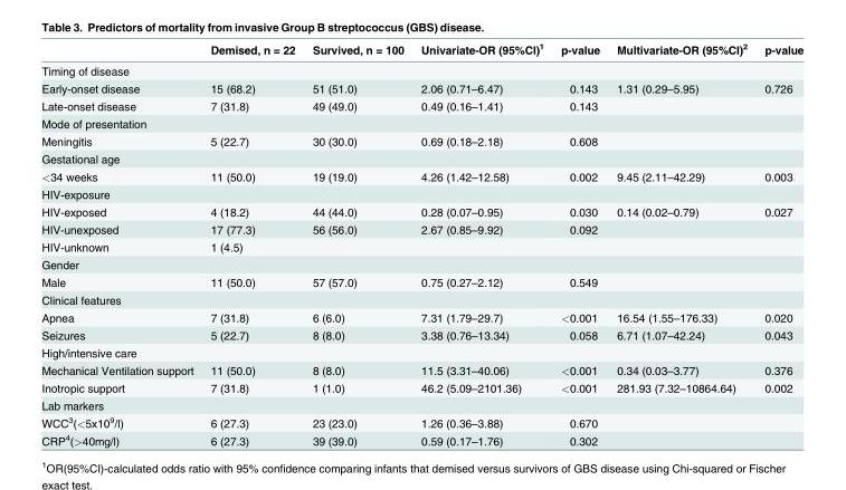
<table><thead><tr><td></td><td>Demised, n = 22</td><td>Survived, n = 100</td><td>Univariate-OR (95%CI)<sup>1</sup></td><td>p-value</td><td>Multivariate-OR (95%CI)<sup>2</sup></td><td>p-value</td></tr></thead><tbody><tr><td colspan="7">Timing of disease</td></tr><tr><td>Early-onset disease</td><td>15 (68.2)</td><td>51 (51.0)</td><td>2.06 (0.71–6.47)</td><td>0.143</td><td>1.31 (0.29–5.95)</td><td>0.726</td></tr><tr><td>Late-onset disease</td><td>7 (31.8)</td><td>49 (49.0)</td><td>0.49 (0.16–1.41)</td><td>0.143</td><td></td><td></td></tr><tr><td colspan="7">Mode of presentation</td></tr><tr><td>Meningitis</td><td>5 (22.7)</td><td>30 (30.0)</td><td>0.69 (0.18–2.18)</td><td>0.608</td><td></td><td></td></tr><tr><td colspan="7">Gestational age</td></tr><tr><td>&lt;34 weeks</td><td>11 (50.0)</td><td>19 (19.0)</td><td>4.26 (1.42–12.58)</td><td>0.002</td><td>9.45 (2.11–42.29)</td><td>0.003</td></tr><tr><td colspan="7">HIV-exposure</td></tr><tr><td>HIV-exposed</td><td>4 (18.2)</td><td>44 (44.0)</td><td>0.28 (0.07–0.95)</td><td>0.030</td><td>0.14 (0.02–0.79)</td><td>0.027</td></tr><tr><td>HIV-unexposed</td><td>17 (77.3)</td><td>56 (56.0)</td><td>2.67 (0.85–9.92)</td><td>0.092</td><td></td><td></td></tr><tr><td>HIV-unknown</td><td>1 (4.5)</td><td></td><td></td><td></td><td></td><td></td></tr><tr><td colspan="7">Gender</td></tr><tr><td>Male</td><td>11 (50.0)</td><td>57 (57.0)</td><td>0.75 (0.27–2.12)</td><td>0.549</td><td></td><td></td></tr><tr><td colspan="7">Clinical features</td></tr><tr><td>Apnea</td><td>7 (31.8)</td><td>6 (6.0)</td><td>7.31 (1.79–29.7)</td><td>&lt;0.001</td><td>16.54 (1.55–176.33)</td><td>0.020</td></tr><tr><td>Seizures</td><td>5 (22.7)</td><td>8 (8.0)</td><td>3.38 (0.76–13.34)</td><td>0.058</td><td>6.71 (1.07–42.24)</td><td>0.043</td></tr><tr><td colspan="7">High/intensive care</td></tr><tr><td>Mechanical Ventilation support</td><td>11 (50.0)</td><td>8 (8.0)</td><td>11.5 (3.31–40.06)</td><td>&lt;0.001</td><td>0.34 (0.03–3.77)</td><td>0.376</td></tr><tr><td>Inotropic support</td><td>7 (31.8)</td><td>1 (1.0)</td><td>46.2 (5.09–2101.36)</td><td>&lt;0.001</td><td>281.93 (7.32–10864.64)</td><td>0.002</td></tr><tr><td colspan="7">Lab markers</td></tr><tr><td>WCC<sup>3</sup>(&lt;5x10<sup>9</sup>/l)</td><td>6 (27.3)</td><td>23 (23.0)</td><td>1.26 (0.36–3.88)</td><td>0.670</td><td></td><td></td></tr><tr><td>CRP<sup>4</sup>(&gt;40mg/l)</td><td>6 (27.3)</td><td>39 (39.0)</td><td>0.59 (0.17–1.76)</td><td>0.302</td><td></td><td></td></tr></tbody></table>